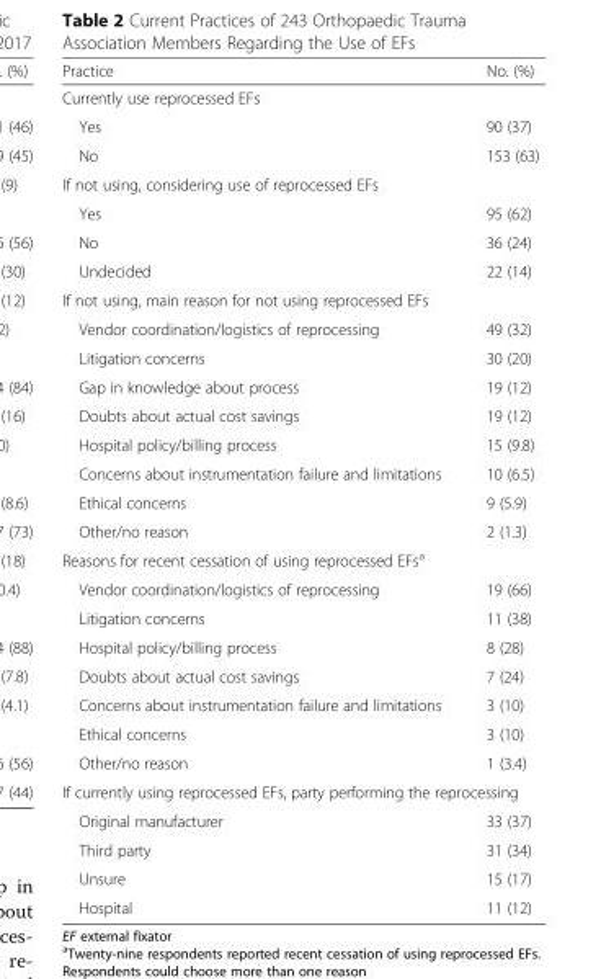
<table><thead><tr><td>Practice</td><td>No. (%)</td></tr></thead><tbody><tr><td colspan="2">Currently use reprocessed EFs</td></tr><tr><td>Yes</td><td>90 (37)</td></tr><tr><td>No</td><td>153 (63)</td></tr><tr><td colspan="2">If not using, considering use of reprocessed EFs</td></tr><tr><td>Yes</td><td>95 (62)</td></tr><tr><td>No</td><td>36 (24)</td></tr><tr><td>Undecided</td><td>22 (14)</td></tr><tr><td colspan="2">If not using, main reason for not using reprocessed EFs</td></tr><tr><td>Vendor coordination/logistics of reprocessing</td><td>49 (32)</td></tr><tr><td>Litigation concerns</td><td>30 (20)</td></tr><tr><td>Gap in knowledge about process</td><td>19 (12)</td></tr><tr><td>Doubts about actual cost savings</td><td>19 (12)</td></tr><tr><td>Hospital policy/billing process</td><td>15 (9.8)</td></tr><tr><td>Concerns about instrumentation failure and limitations</td><td>10 (6.5)</td></tr><tr><td>Ethical concerns</td><td>9 (5.9)</td></tr><tr><td>Other/no reason</td><td>2 (1.3)</td></tr><tr><td colspan="2">Reasons for recent cessation of using reprocessed EFs<sup>a</sup></td></tr><tr><td>Vendor coordination/logistics of reprocessing</td><td>19 (66)</td></tr><tr><td>Litigation concerns</td><td>11 (38)</td></tr><tr><td>Hospital policy/billing process</td><td>8 (28)</td></tr><tr><td>Doubts about actual cost savings</td><td>7 (24)</td></tr><tr><td>Concerns about instrumentation failure and limitations</td><td>3 (10)</td></tr><tr><td>Ethical concerns</td><td>3 (10)</td></tr><tr><td>Other/no reason</td><td>1 (3.4)</td></tr><tr><td colspan="2">If currently using reprocessed EFs, party performing the reprocessing</td></tr><tr><td>Original manufacturer</td><td>33 (37)</td></tr><tr><td>Third party</td><td>31 (34)</td></tr><tr><td>Unsure</td><td>15 (17)</td></tr><tr><td>Hospital</td><td>11 (12)</td></tr></tbody></table>